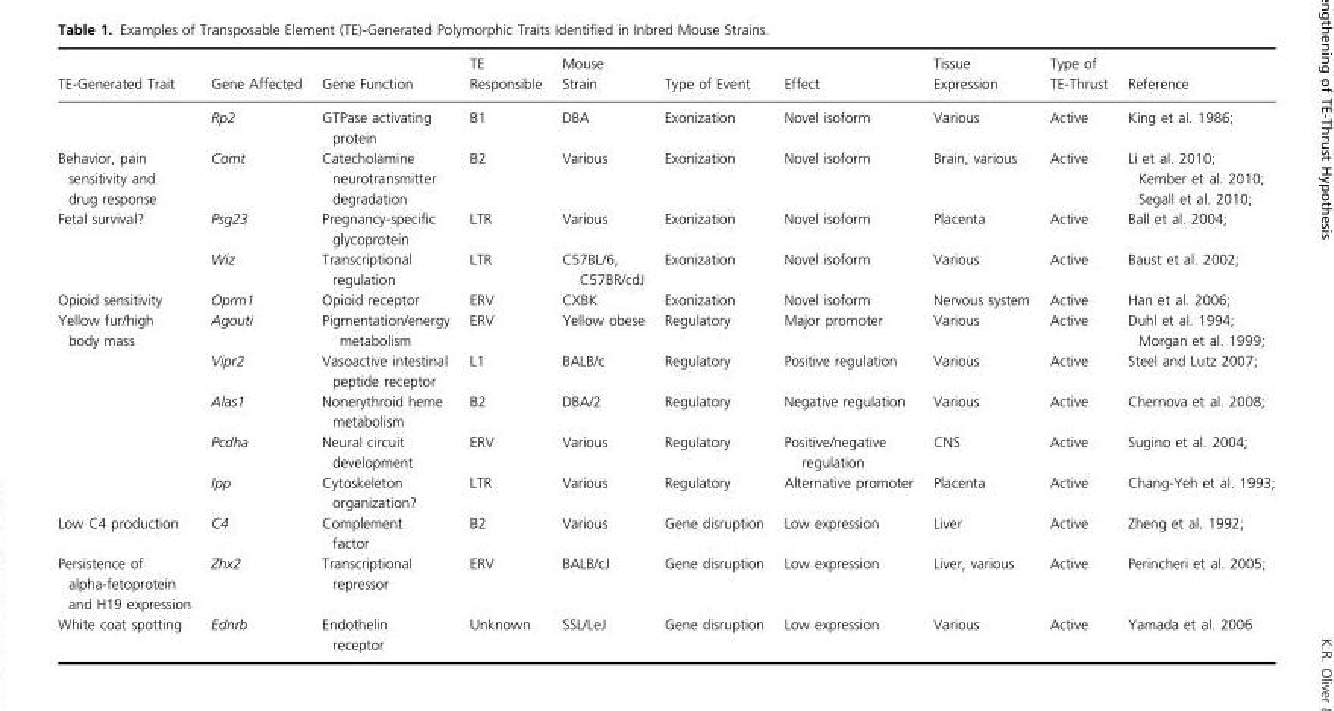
<table><thead><tr><td>TE-Generated Trait</td><td>Gene Affected</td><td>Gene Function</td><td>TE Responsible</td><td>Mouse Strain</td><td>Type of Event</td><td>Effect</td><td>Tissue Expression</td><td>Type of TE-Thrust</td><td>Reference</td></tr></thead><tbody><tr><td></td><td>Rp2</td><td>GTPase activating protein</td><td>B1</td><td>DBA</td><td>Exonization</td><td>Novel isoform</td><td>Various</td><td>Active</td><td>King et al. 1986;</td></tr><tr><td>Behavior, pain sensitivity and drug response</td><td>Comt</td><td>Catecholamine neurotransmitter degradation</td><td>B2</td><td>Various</td><td>Exonization</td><td>Novel isoform</td><td>Brain, various</td><td>Active</td><td>Li et al. 2010; Kember et al. 2010; Segall et al. 2010;</td></tr><tr><td rowspan="2">Fetal survival?</td><td>Psg23</td><td>Pregnancy-specific glycoprotein</td><td>LTR</td><td>Various</td><td>Exonization</td><td>Novel isoform</td><td>Placenta</td><td>Active</td><td>Ball et al. 2004;</td></tr><tr><td>Wiz</td><td>Transcriptional regulation</td><td>LTR</td><td>C57BL/6, C57BR/cdJ</td><td>Exonization</td><td>Novel isoform</td><td>Various</td><td>Active</td><td>Baust et al. 2002;</td></tr><tr><td>Opioid sensitivity</td><td>Oprm1</td><td>Opioid receptor</td><td>ERV</td><td>CXBK</td><td>Exonization</td><td>Novel isoform</td><td>Nervous system</td><td>Active</td><td>Han et al. 2006;</td></tr><tr><td rowspan="5">Yellow fur/high body mass</td><td>Agouti</td><td>Pigmentation/energy metabolism</td><td>ERV</td><td>Yellow obese</td><td>Regulatory</td><td>Major promoter</td><td>Various</td><td>Active</td><td>Duhl et al. 1994; Morgan et al. 1999;</td></tr><tr><td>Vipr2</td><td>Vasoactive intestinal peptide receptor</td><td>L1</td><td>BALB/c</td><td>Regulatory</td><td>Positive regulation</td><td>Various</td><td>Active</td><td>Steel and Lutz 2007;</td></tr><tr><td>Alas1</td><td>Nonerythroid heme metabolism</td><td>B2</td><td>DBA/2</td><td>Regulatory</td><td>Negative regulation</td><td>Various</td><td>Active</td><td>Chernova et al. 2008;</td></tr><tr><td>Pcdha</td><td>Neural circuit development</td><td>ERV</td><td>Various</td><td>Regulatory</td><td>Positive/negative regulation</td><td>CNS</td><td>Active</td><td>Sugino et al. 2004;</td></tr><tr><td>Ipp</td><td>Cytoskeleton organization?</td><td>LTR</td><td>Various</td><td>Regulatory</td><td>Alternative promoter</td><td>Placenta</td><td>Active</td><td>Chang-Yeh et al. 1993;</td></tr><tr><td>Low C4 production</td><td>C4</td><td>Complement factor</td><td>B2</td><td>Various</td><td>Gene disruption</td><td>Low expression</td><td>Liver</td><td>Active</td><td>Zheng et al. 1992;</td></tr><tr><td>Persistence of alpha-fetoprotein and H19 expression</td><td>Zhx2</td><td>Transcriptional repressor</td><td>ERV</td><td>BALB/cJ</td><td>Gene disruption</td><td>Low expression</td><td>Liver, various</td><td>Active</td><td>Perincheri et al. 2005;</td></tr><tr><td>White coat spotting</td><td>Ednrb</td><td>Endothelin receptor</td><td>Unknown</td><td>SSL/LeJ</td><td>Gene disruption</td><td>Low expression</td><td>Various</td><td>Active</td><td>Yamada et al. 2006</td></tr></tbody></table>